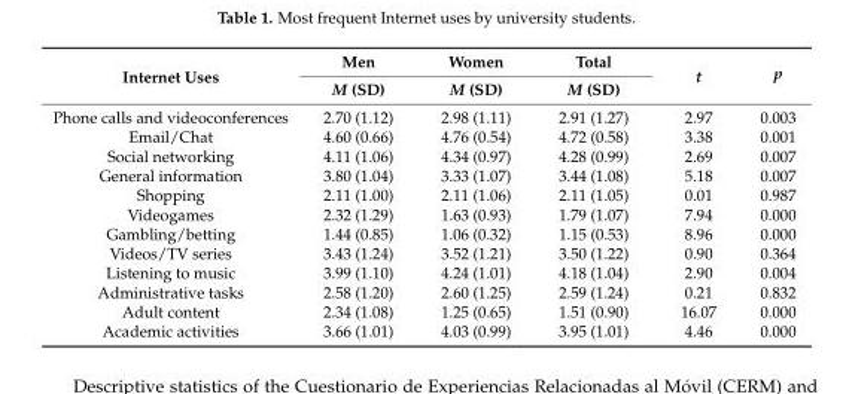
<table><thead><tr><td rowspan="2">Internet Uses</td><td rowspan="2">Men M (SD)</td><td rowspan="2">Women M (SD)</td><td rowspan="2">Total M (SD)</td><td rowspan="2">t</td><td rowspan="2">p</td></tr><tr></tr></thead><tbody><tr><td>Phone calls and videoconferences</td><td>2.70 (1.12)</td><td>2.98 (1.11)</td><td>2.91 (1.27)</td><td>2.97</td><td>0.003</td></tr><tr><td>Email/Chat</td><td>4.60 (0.66)</td><td>4.76 (0.54)</td><td>4.72 (0.58)</td><td>3.38</td><td>0.001</td></tr><tr><td>Social networking</td><td>4.11 (1.06)</td><td>4.34 (0.97)</td><td>4.28 (0.99)</td><td>2.69</td><td>0.007</td></tr><tr><td>General information</td><td>3.80 (1.04)</td><td>3.33 (1.07)</td><td>3.44 (1.08)</td><td>5.18</td><td>0.007</td></tr><tr><td>Shopping</td><td>2.11 (1.00)</td><td>2.11 (1.06)</td><td>2.11 (1.05)</td><td>0.01</td><td>0.987</td></tr><tr><td>Videogames</td><td>2.32 (1.29)</td><td>1.63 (0.93)</td><td>1.79 (1.07)</td><td>7.94</td><td>0.000</td></tr><tr><td>Gambling/betting</td><td>1.44 (0.85)</td><td>1.06 (0.32)</td><td>1.15 (0.53)</td><td>8.96</td><td>0.000</td></tr><tr><td>Videos/TV series</td><td>3.43 (1.24)</td><td>3.52 (1.21)</td><td>3.50 (1.22)</td><td>0.90</td><td>0.364</td></tr><tr><td>Listening to music</td><td>3.99 (1.10)</td><td>4.24 (1.01)</td><td>4.18 (1.04)</td><td>2.90</td><td>0.004</td></tr><tr><td>Administrative tasks</td><td>2.58 (1.20)</td><td>2.60 (1.25)</td><td>2.59 (1.24)</td><td>0.21</td><td>0.832</td></tr><tr><td>Adult content</td><td>2.34 (1.08)</td><td>1.25 (0.65)</td><td>1.51 (0.90)</td><td>16.07</td><td>0.000</td></tr><tr><td>Academic activities</td><td>3.66 (1.01)</td><td>4.03 (0.99)</td><td>3.95 (1.01)</td><td>4.46</td><td>0.000</td></tr></tbody></table>